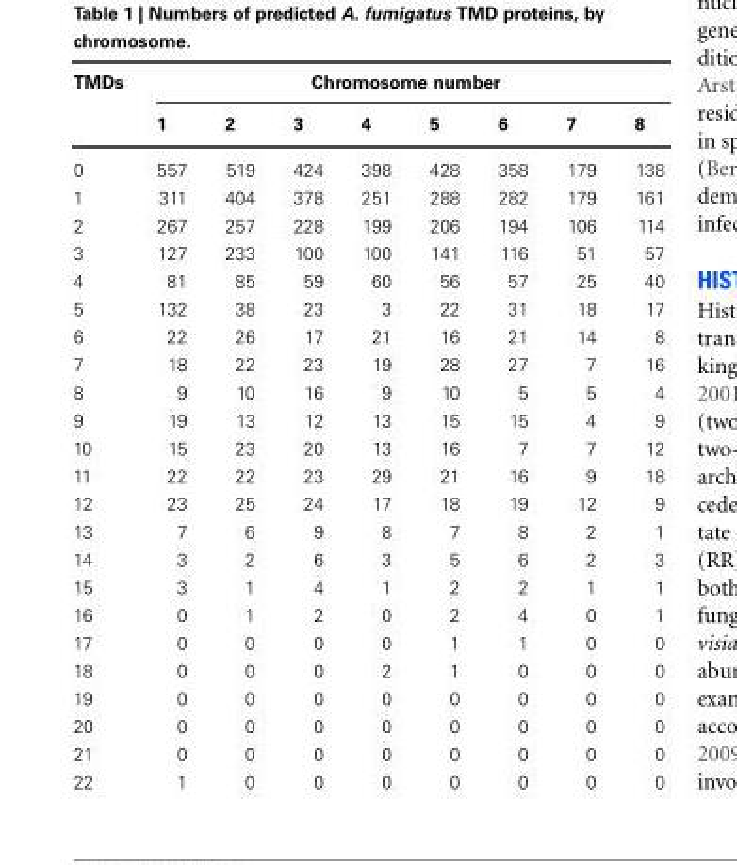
<table><thead><tr><td rowspan="2">TMDs</td><td colspan="8">Chromosome number</td></tr><tr><td>1</td><td>2</td><td>3</td><td>4</td><td>5</td><td>6</td><td>7</td><td>8</td></tr></thead><tbody><tr><td>0</td><td>557</td><td>519</td><td>424</td><td>398</td><td>428</td><td>358</td><td>179</td><td>138</td></tr><tr><td>1</td><td>311</td><td>404</td><td>378</td><td>251</td><td>288</td><td>282</td><td>179</td><td>161</td></tr><tr><td>2</td><td>267</td><td>257</td><td>228</td><td>199</td><td>206</td><td>194</td><td>106</td><td>114</td></tr><tr><td>3</td><td>127</td><td>233</td><td>100</td><td>100</td><td>141</td><td>116</td><td>51</td><td>57</td></tr><tr><td>4</td><td>81</td><td>85</td><td>59</td><td>60</td><td>56</td><td>57</td><td>25</td><td>40</td></tr><tr><td>5</td><td>132</td><td>38</td><td>23</td><td>3</td><td>22</td><td>31</td><td>18</td><td>17</td></tr><tr><td>6</td><td>22</td><td>26</td><td>17</td><td>21</td><td>16</td><td>21</td><td>14</td><td>8</td></tr><tr><td>7</td><td>18</td><td>22</td><td>23</td><td>19</td><td>28</td><td>27</td><td>7</td><td>16</td></tr><tr><td>8</td><td>9</td><td>10</td><td>16</td><td>9</td><td>10</td><td>5</td><td>5</td><td>4</td></tr><tr><td>9</td><td>19</td><td>13</td><td>12</td><td>13</td><td>15</td><td>15</td><td>4</td><td>9</td></tr><tr><td>10</td><td>15</td><td>23</td><td>20</td><td>13</td><td>16</td><td>7</td><td>7</td><td>12</td></tr><tr><td>11</td><td>22</td><td>22</td><td>23</td><td>29</td><td>21</td><td>16</td><td>9</td><td>18</td></tr><tr><td>12</td><td>23</td><td>25</td><td>24</td><td>17</td><td>18</td><td>19</td><td>12</td><td>9</td></tr><tr><td>13</td><td>7</td><td>6</td><td>9</td><td>8</td><td>7</td><td>8</td><td>2</td><td>1</td></tr><tr><td>14</td><td>3</td><td>2</td><td>6</td><td>3</td><td>5</td><td>6</td><td>2</td><td>3</td></tr><tr><td>15</td><td>3</td><td>1</td><td>4</td><td>1</td><td>2</td><td>2</td><td>1</td><td>1</td></tr><tr><td>16</td><td>0</td><td>1</td><td>2</td><td>0</td><td>2</td><td>4</td><td>0</td><td>1</td></tr><tr><td>17</td><td>0</td><td>0</td><td>0</td><td>0</td><td>1</td><td>1</td><td>0</td><td>0</td></tr><tr><td>18</td><td>0</td><td>0</td><td>0</td><td>2</td><td>1</td><td>0</td><td>0</td><td>0</td></tr><tr><td>19</td><td>0</td><td>0</td><td>0</td><td>0</td><td>0</td><td>0</td><td>0</td><td>0</td></tr><tr><td>20</td><td>0</td><td>0</td><td>0</td><td>0</td><td>0</td><td>0</td><td>0</td><td>0</td></tr><tr><td>21</td><td>0</td><td>0</td><td>0</td><td>0</td><td>0</td><td>0</td><td>0</td><td>0</td></tr><tr><td>22</td><td>1</td><td>0</td><td>0</td><td>0</td><td>0</td><td>0</td><td>0</td><td>0</td></tr></tbody></table>